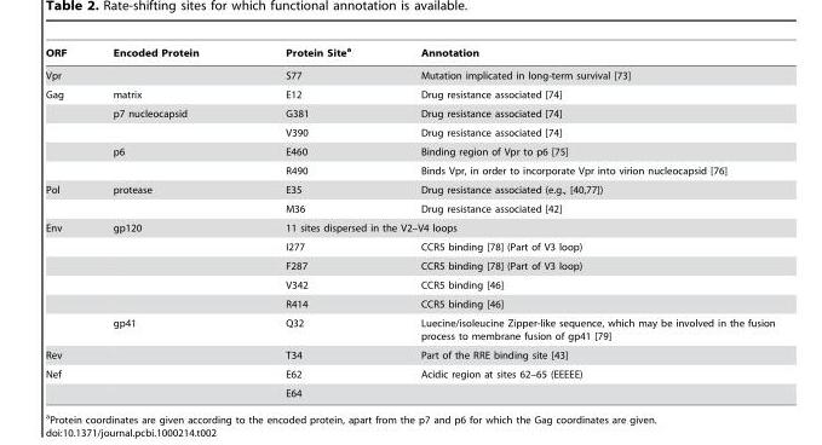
<table><thead><tr><td>ORF</td><td>Encoded Protein</td><td>Protein Site<sup>a</sup></td><td>Annotation</td></tr></thead><tbody><tr><td>Vpr</td><td></td><td>S77</td><td>Mutation implicated in long-term survival [73]</td></tr><tr><td rowspan="5">Gag</td><td>matrix</td><td>E12</td><td>Drug resistance associated [74]</td></tr><tr><td>p7 nucleocapsid</td><td>G381</td><td>Drug resistance associated [74]</td></tr><tr><td></td><td>V390</td><td>Drug resistance associated [74]</td></tr><tr><td>p6</td><td>E460</td><td>Binding region of Vpr to p6 [75]</td></tr><tr><td></td><td>R490</td><td>Binds Vpr, in order to incorporate Vpr into virion nucleocapsid [76]</td></tr><tr><td rowspan="2">Pol</td><td>protease</td><td>E35</td><td>Drug resistance associated (e.g., [40,77])</td></tr><tr><td></td><td>M36</td><td>Drug resistance associated [42]</td></tr><tr><td rowspan="6">Env</td><td>gp120</td><td colspan="2">11 sites dispersed in the V2–V4 loops</td></tr><tr><td></td><td>I277</td><td>CCR5 binding [78] (Part of V3 loop)</td></tr><tr><td></td><td>F287</td><td>CCR5 binding [78] (Part of V3 loop)</td></tr><tr><td></td><td>V342</td><td>CCR5 binding [46]</td></tr><tr><td></td><td>R414</td><td>CCR5 binding [46]</td></tr><tr><td>gp41</td><td>Q32</td><td>Luecine/isoleucine Zipper-like sequence, which may be involved in the fusion process to membrane fusion of gp41 [79]</td></tr><tr><td>Rev</td><td></td><td>T34</td><td>Part of the RRE binding site [43]</td></tr><tr><td rowspan="2">Nef</td><td></td><td>E62</td><td>Acidic region at sites 62–65 (EEEEE)</td></tr><tr><td></td><td>E64</td><td></td></tr></tbody></table>